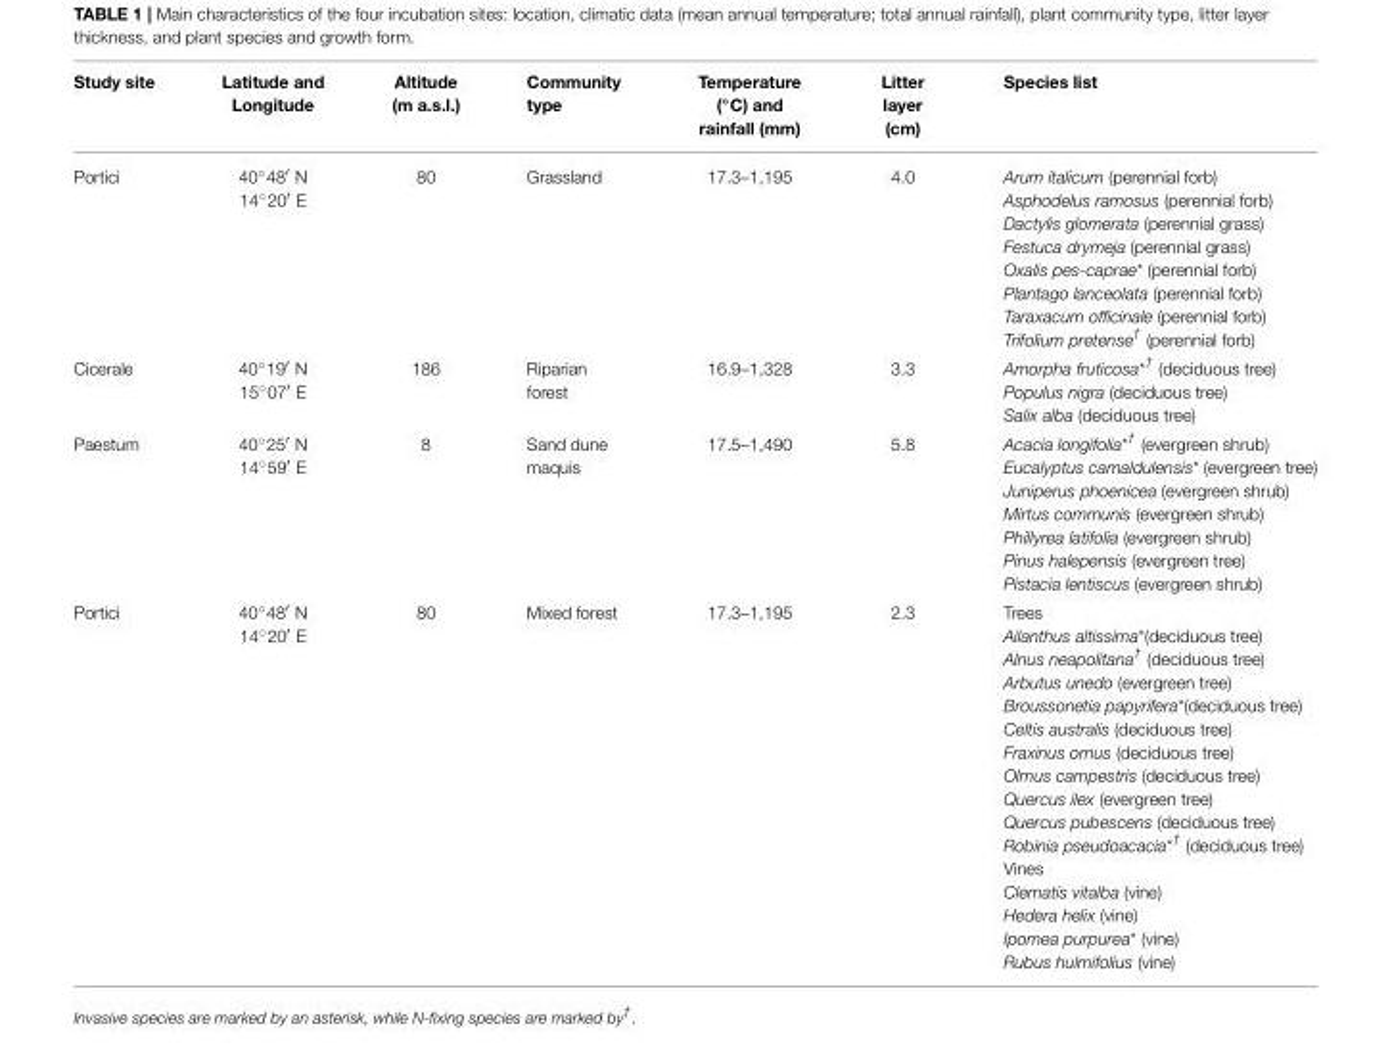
<table><thead><tr><td>Study site</td><td>Latitude and Longitude</td><td>Altitude (m a.s.l.)</td><td>Community type</td><td>Temperature (◦C) and rainfall (mm)</td><td>Litter layer (cm)</td><td>Species list</td></tr></thead><tbody><tr><td>Portici</td><td>40◦48′ N 14◦20′ E</td><td>80</td><td>Grassland</td><td>17.3–1,195</td><td>4.0</td><td>Arum italicum (perennial forb) Asphodelus ramosus (perennial forb) Dactylis glomerata (perennial grass) Festuca drymeja (perennial grass) Oxalis pes-caprae* (perennial forb) Plantago lanceolata (perennial forb) Taraxacum officinale (perennial forb) Trifolium pretense<sup>†</sup> (perennial forb)</td></tr><tr><td>Cicerale</td><td>40◦19′ N 15◦07′ E</td><td>186</td><td>Riparian forest</td><td>16.9–1,328</td><td>3.3</td><td>Amorpha fruticosa<sup>*†</sup> (deciduous tree) Populus nigra (deciduous tree) Salix alba (deciduous tree)</td></tr><tr><td>Paestum</td><td>40◦25′ N 14◦59′ E</td><td>8</td><td>Sand dune maquis</td><td>17.5–1,490</td><td>5.8</td><td>Acacia longifolia<sup>*†</sup> (evergreen shrub) Eucalyptus camaldulensis* (evergreen tree) Juniperus phoenicea (evergreen shrub) Mirtus communis (evergreen shrub) Phillyrea latifolia (evergreen shrub) Pinus halepensis (evergreen tree) Pistacia lentiscus (evergreen shrub)</td></tr><tr><td>Portici</td><td>40◦48′ N 14◦20′ E</td><td>80</td><td>Mixed forest</td><td>17.3–1,195</td><td>2.3</td><td>Trees Ailanthus altissima*(deciduous tree) Alnus neapolitana† (deciduous tree) Arbutus unedo (evergreen tree) Broussonetia papyrifera*(deciduous tree) Celtis australis (deciduous tree) Fraxinus ornus (deciduous tree) Olmus campestris (deciduous tree) Quercus ilex (evergreen tree) Quercus pubescens (deciduous tree) Robinia pseudoacacia*† (deciduous tree) Vines Clematis vitalba (vine) Hedera helix (vine) Ipomea purpurea* (vine) Rubus hulmifolius (vine)</td></tr></tbody></table>